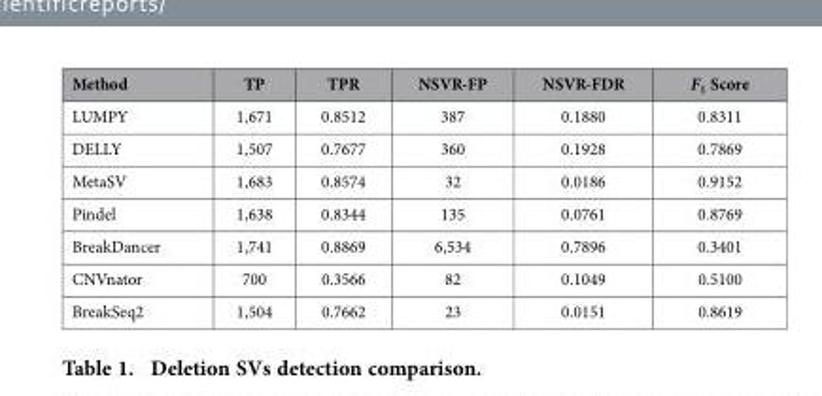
<table><thead><tr><td>Method</td><td>TP</td><td>TPR</td><td>NSVR-FP</td><td>NSVR-FDR</td><td>F<sub>1</sub> Score</td></tr></thead><tbody><tr><td>LUMPY</td><td>1,671</td><td>0.8512</td><td>387</td><td>0.1880</td><td>0.8311</td></tr><tr><td>DELLY</td><td>1,507</td><td>0.7677</td><td>360</td><td>0.1928</td><td>0.7869</td></tr><tr><td>MetaSV</td><td>1,683</td><td>0.8574</td><td>32</td><td>0.0186</td><td>0.9152</td></tr><tr><td>Pindel</td><td>1,638</td><td>0.8344</td><td>135</td><td>0.0761</td><td>0.8769</td></tr><tr><td>BreakDancer</td><td>1,741</td><td>0.8869</td><td>6,534</td><td>0.7896</td><td>0.3401</td></tr><tr><td>CNVnator</td><td>700</td><td>0.3566</td><td>82</td><td>0.1049</td><td>0.5100</td></tr><tr><td>BreakSeq2</td><td>1,504</td><td>0.7662</td><td>23</td><td>0.0151</td><td>0.8619</td></tr></tbody></table>